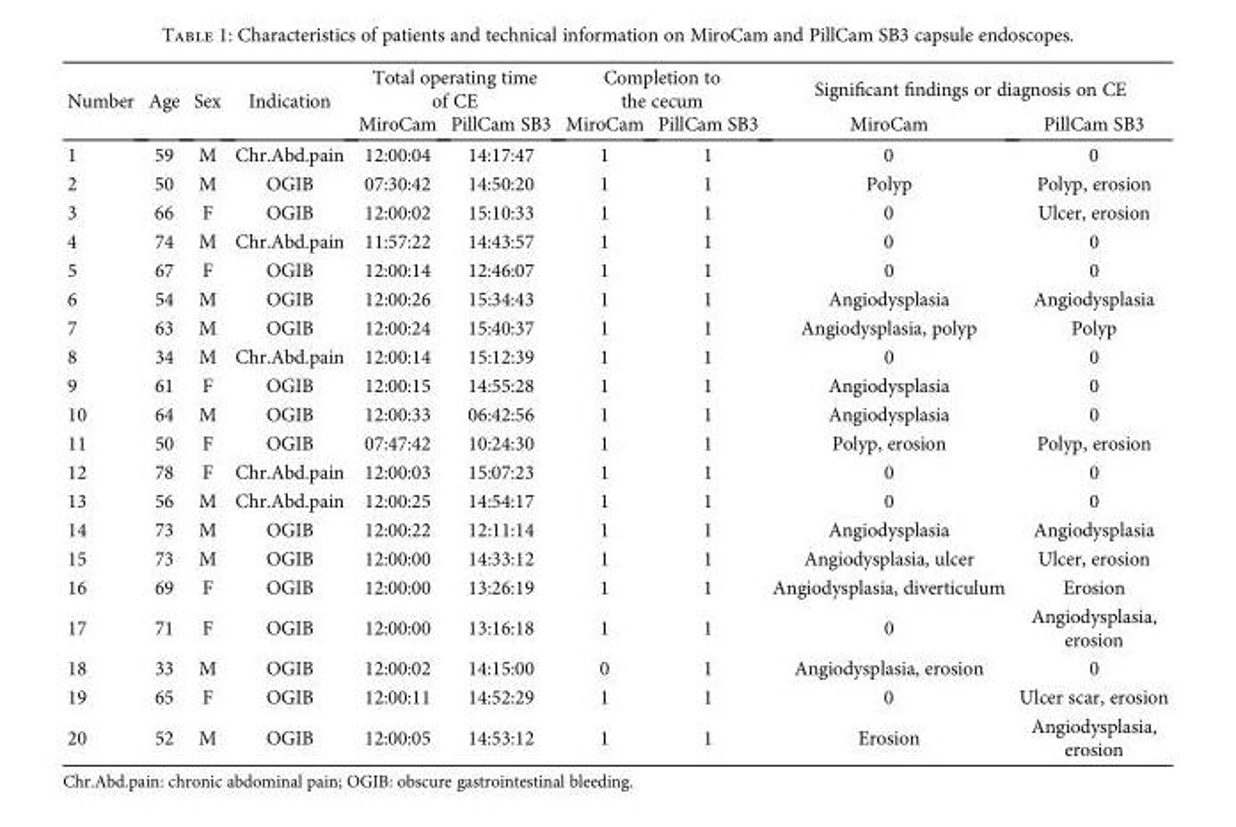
<table><thead><tr><td rowspan="2">Number</td><td rowspan="2">Age</td><td rowspan="2">Sex</td><td rowspan="2">Indication</td><td colspan="2">Total operating time of CE</td><td colspan="2">Completion to the cecum</td><td colspan="2">Significant findings or diagnosis on CE</td></tr><tr><td>MiroCam</td><td>PillCam SB3</td><td>MiroCam</td><td>PillCam SB3</td><td>MiroCam</td><td>PillCam SB3</td></tr></thead><tbody><tr><td>1</td><td>59</td><td>M</td><td>Chr.Abd.pain</td><td>12:00:04</td><td>14:17:47</td><td>1</td><td>1</td><td>0</td><td>0</td></tr><tr><td>2</td><td>50</td><td>M</td><td>OGIB</td><td>07:30:42</td><td>14:50:20</td><td>1</td><td>1</td><td>Polyp</td><td>Polyp, erosion</td></tr><tr><td>3</td><td>66</td><td>F</td><td>OGIB</td><td>12:00:02</td><td>15:10:33</td><td>1</td><td>1</td><td>0</td><td>Ulcer, erosion</td></tr><tr><td>4</td><td>74</td><td>M</td><td>Chr.Abd.pain</td><td>11:57:22</td><td>14:43:57</td><td>1</td><td>1</td><td>0</td><td>0</td></tr><tr><td>5</td><td>67</td><td>F</td><td>OGIB</td><td>12:00:14</td><td>12:46:07</td><td>1</td><td>1</td><td>0</td><td>0</td></tr><tr><td>6</td><td>54</td><td>M</td><td>OGIB</td><td>12:00:26</td><td>15:34:43</td><td>1</td><td>1</td><td>Angiodysplasia</td><td>Angiodysplasia</td></tr><tr><td>7</td><td>63</td><td>M</td><td>OGIB</td><td>12:00:24</td><td>15:40:37</td><td>1</td><td>1</td><td>Angiodysplasia, polyp</td><td>Polyp</td></tr><tr><td>8</td><td>34</td><td>M</td><td>Chr.Abd.pain</td><td>12:00:14</td><td>15:12:39</td><td>1</td><td>1</td><td>0</td><td>0</td></tr><tr><td>9</td><td>61</td><td>F</td><td>OGIB</td><td>12:00:15</td><td>14:55:28</td><td>1</td><td>1</td><td>Angiodysplasia</td><td>0</td></tr><tr><td>10</td><td>64</td><td>M</td><td>OGIB</td><td>12:00:33</td><td>06:42:56</td><td>1</td><td>1</td><td>Angiodysplasia</td><td>0</td></tr><tr><td>11</td><td>50</td><td>F</td><td>OGIB</td><td>07:47:42</td><td>10:24:30</td><td>1</td><td>1</td><td>Polyp, erosion</td><td>Polyp, erosion</td></tr><tr><td>12</td><td>78</td><td>F</td><td>Chr.Abd.pain</td><td>12:00:03</td><td>15:07:23</td><td>1</td><td>1</td><td>0</td><td>0</td></tr><tr><td>13</td><td>56</td><td>M</td><td>Chr.Abd.pain</td><td>12:00:25</td><td>14:54:17</td><td>1</td><td>1</td><td>0</td><td>0</td></tr><tr><td>14</td><td>73</td><td>M</td><td>OGIB</td><td>12:00:22</td><td>12:11:14</td><td>1</td><td>1</td><td>Angiodysplasia</td><td>Angiodysplasia</td></tr><tr><td>15</td><td>73</td><td>M</td><td>OGIB</td><td>12:00:00</td><td>14:33:12</td><td>1</td><td>1</td><td>Angiodysplasia, ulcer</td><td>Ulcer, erosion</td></tr><tr><td>16</td><td>69</td><td>F</td><td>OGIB</td><td>12:00:00</td><td>13:26:19</td><td>1</td><td>1</td><td>Angiodysplasia, diverticulum</td><td>Erosion</td></tr><tr><td>17</td><td>71</td><td>F</td><td>OGIB</td><td>12:00:00</td><td>13:16:18</td><td>1</td><td>1</td><td>0</td><td>Angiodysplasia, erosion</td></tr><tr><td>18</td><td>33</td><td>M</td><td>OGIB</td><td>12:00:02</td><td>14:15:00</td><td>0</td><td>1</td><td>Angiodysplasia, erosion</td><td>0</td></tr><tr><td>19</td><td>65</td><td>F</td><td>OGIB</td><td>12:00:11</td><td>14:52:29</td><td>1</td><td>1</td><td>0</td><td>Ulcer scar, erosion</td></tr><tr><td>20</td><td>52</td><td>M</td><td>OGIB</td><td>12:00:05</td><td>14:53:12</td><td>1</td><td>1</td><td>Erosion</td><td>Angiodysplasia, erosion</td></tr></tbody></table>